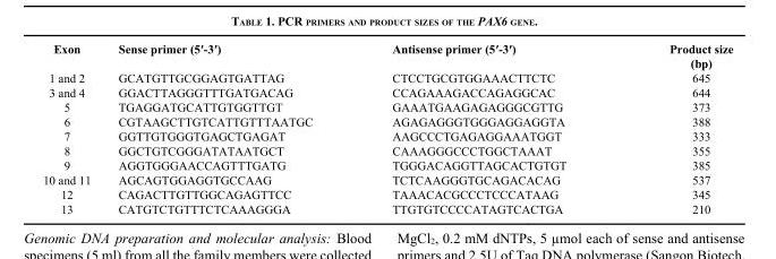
<table><thead><tr><td>Exon</td><td>Sense primer (5′-3′)</td><td>Antisense primer (5′-3′)</td><td>Product size (bp)</td></tr></thead><tbody><tr><td>1 and 2</td><td>GCATGTTGCGGAGTGATTAG</td><td>CTCCTGCGTGGAAACTTCTC</td><td>645</td></tr><tr><td>3 and 4</td><td>GGACTTAGGGTTTGATGACAG</td><td>CCAGAAAGACCAGAGGCAC</td><td>644</td></tr><tr><td>5</td><td>TGAGGATGCATTGTGGTTGT</td><td>GAAATGAAGAGAGGGCGTTG</td><td>373</td></tr><tr><td>6</td><td>CGTAAGCTTGTCATTGTTTAATGC</td><td>AGAGAGGGTGGGAGGAGGTA</td><td>388</td></tr><tr><td>7</td><td>GGTTGTGGGTGAGCTGAGAT</td><td>AAGCCCTGAGAGGAAATGGT</td><td>333</td></tr><tr><td>8</td><td>GGCTGTCGGGATATAATGCT</td><td>CAAAGGGCCCTGGCTAAAT</td><td>355</td></tr><tr><td>9</td><td>AGGTGGGAACCAGTTTGATG</td><td>TGGGACAGGTTAGCACTGTGT</td><td>385</td></tr><tr><td>10 and 11</td><td>AGCAGTGGAGGTGCCAAG</td><td>TCTCAAGGGTGCAGACACAG</td><td>537</td></tr><tr><td>12</td><td>CAGACTTGTTGGCAGAGTTCC</td><td>TAAACACGCCCTCCCATAAG</td><td>345</td></tr><tr><td>13</td><td>CATGTCTGTTTCTCAAAGGGA</td><td>TTGTGTCCCCATAGTCACTGA</td><td>210</td></tr></tbody></table>